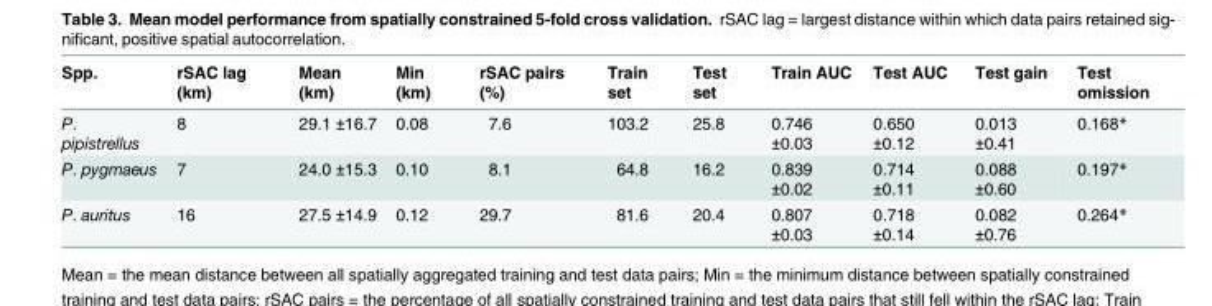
<table><thead><tr><td>Spp.</td><td>rSAC lag (km)</td><td>Mean (km)</td><td>Min (km)</td><td>rSAC pairs (%)</td><td>Train set</td><td>Test set</td><td>Train AUC</td><td>Test AUC</td><td>Test gain</td><td>Test omission</td></tr></thead><tbody><tr><td>P. pipistrellus</td><td>8</td><td>29.1 ±16.7</td><td>0.08</td><td>7.6</td><td>103.2</td><td>25.8</td><td>0.746 ±0.03</td><td>0.650 ±0.12</td><td>0.013 ±0.41</td><td>0.168*</td></tr><tr><td>P. pygmaeus</td><td>7</td><td>24.0 ±15.3</td><td>0.10</td><td>8.1</td><td>64.8</td><td>16.2</td><td>0.839 ±0.02</td><td>0.714 ±0.11</td><td>0.088 ±0.60</td><td>0.197*</td></tr><tr><td>P. auritus</td><td>16</td><td>27.5 ±14.9</td><td>0.12</td><td>29.7</td><td>81.6</td><td>20.4</td><td>0.807 ±0.03</td><td>0.718 ±0.14</td><td>0.082 ±0.76</td><td>0.264*</td></tr></tbody></table>